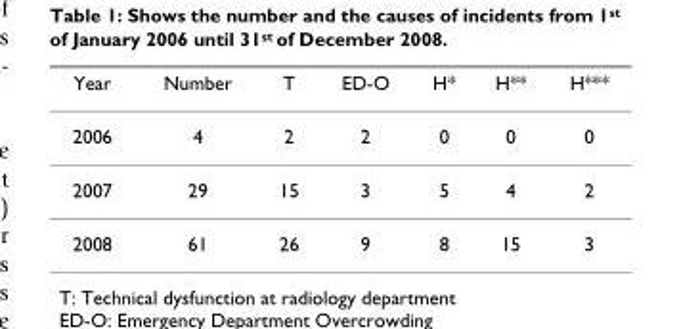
<table><thead><tr><td>Year</td><td>Number</td><td>T</td><td>ED-O</td><td>H*</td><td>H**</td><td>H***</td></tr></thead><tbody><tr><td>2006</td><td>4</td><td>2</td><td>2</td><td>0</td><td>0</td><td>0</td></tr><tr><td>2007</td><td>29</td><td>15</td><td>3</td><td>5</td><td>4</td><td>2</td></tr><tr><td>2008</td><td>61</td><td>26</td><td>9</td><td>8</td><td>15</td><td>3</td></tr></tbody></table>